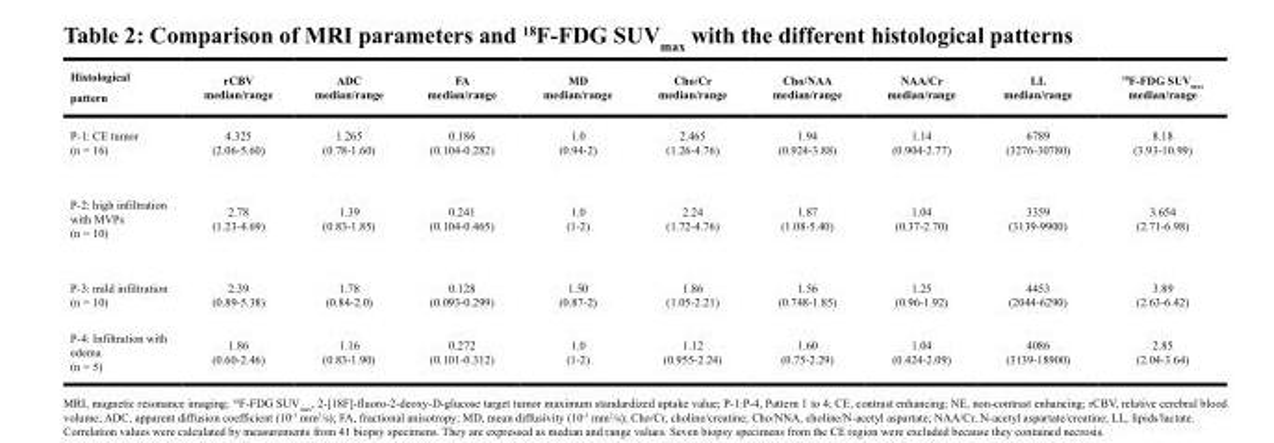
<table><thead><tr><td>Histological pattern</td><td>rCBV median/range</td><td>ADC median/range</td><td>FA median/range</td><td>MD median/range</td><td>Cho/Cr median/range</td><td>Cho/NAA median/range</td><td>NAA/Cr median/range</td><td>LL median/range</td><td><sup>18</sup>F-FDG SUV<sub>max</sub> median/range</td></tr></thead><tbody><tr><td>P-1: CE tumor (n = 16)</td><td>4.325 (2.06-5.60)</td><td>1.265 (0.78-1.60)</td><td>0.186 (0.104-0.282)</td><td>1.0 (0.94-2)</td><td>2.465 (1.26-4.76)</td><td>1.94 (0.924-3.88)</td><td>1.14 (0.904-2.77)</td><td>6789 (3276-30780)</td><td>8.18 (3.93-10.99)</td></tr><tr><td>P-2: high infiltration with MVPs (n = 10)</td><td>2.78 (1.23-4.69)</td><td>1.39 (0.83-1.85)</td><td>0.241 (0.104-0.465)</td><td>1.0 (1-2)</td><td>2.24 (1.72-4.76)</td><td>1.87 (1.08-5.40)</td><td>1.04 (0.37-2.70)</td><td>3359 (3139-9900)</td><td>3.654 (2.71-6.98)</td></tr><tr><td>P-3: mild infiltration (n = 10)</td><td>2.39 (0.89-5.38)</td><td>1.78 (0.84-2.0)</td><td>0.128 (0.093-0.299)</td><td>1.50 (0.87-2)</td><td>1.86 (1.05-2.21)</td><td>1.56 (0.748-1.85)</td><td>1.25 (0.96-1.92)</td><td>4453 (2044-6290)</td><td>3.89 (2.63-6.42)</td></tr><tr><td>P-4: Infiltration with edema (n = 5)</td><td>1.86 (0.60-2.46)</td><td>1.16 (0.83-1.90)</td><td>0.272 (0.101-0.312)</td><td>1.0 (1-2)</td><td>1.12 (0.955-2.24)</td><td>1.60 (0.75-2.29)</td><td>1.04 (0.424-2.09)</td><td>4086 (3139-18900)</td><td>2.85 (2.04-3.64)</td></tr></tbody></table>